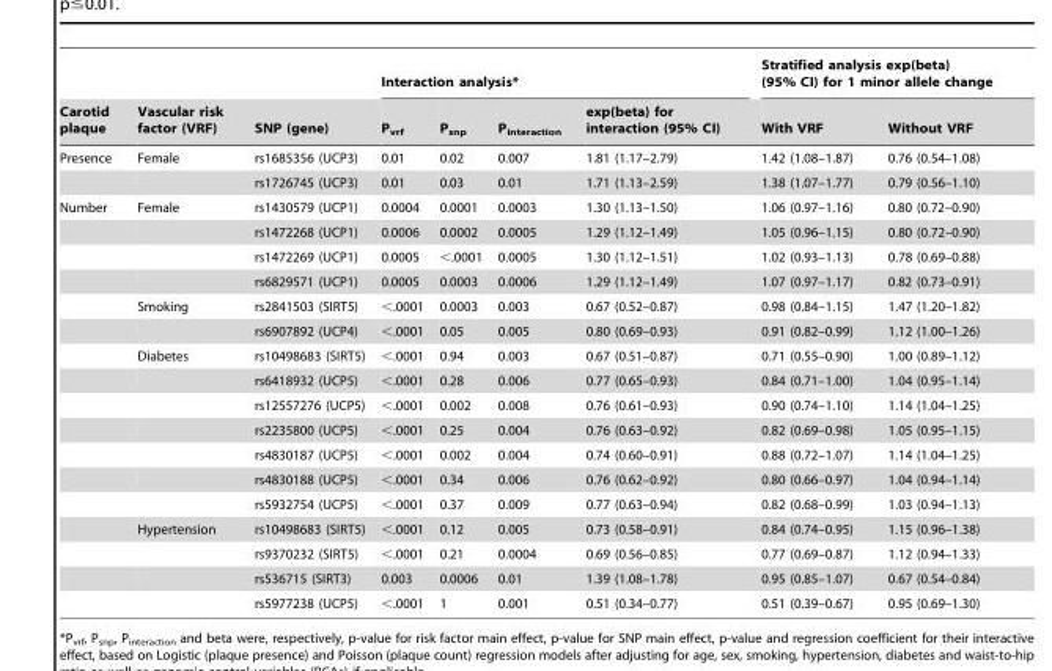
<table><thead><tr><td rowspan="2">Carotid plaque</td><td rowspan="2">Vascular risk factor (VRF)</td><td rowspan="2">SNP (gene)</td><td colspan="4">Interaction analysis*</td><td colspan="2">Stratified analysis exp(beta) (95% CI) for 1 minor allele change</td></tr><tr><td>P<sub>vrf</sub></td><td>P<sub>snp</sub></td><td>P<sub>interaction</sub></td><td>exp(beta) for interaction (95% CI)</td><td>With VRF</td><td>Without VRF</td></tr></thead><tbody><tr><td rowspan="2">Presence</td><td>Female</td><td>rs1685356 (UCP3)</td><td>0.01</td><td>0.02</td><td>0.007</td><td>1.81 (1.17–2.79)</td><td>1.42 (1.08–1.87)</td><td>0.76 (0.54–1.08)</td></tr><tr><td></td><td>rs1726745 (UCP3)</td><td>0.01</td><td>0.03</td><td>0.01</td><td>1.71 (1.13–2.59)</td><td>1.38 (1.07–1.77)</td><td>0.79 (0.56–1.10)</td></tr><tr><td rowspan="17">Number</td><td>Female</td><td>rs1430579 (UCP1)</td><td>0.0004</td><td>0.0001</td><td>0.0003</td><td>1.30 (1.13–1.50)</td><td>1.06 (0.97–1.16)</td><td>0.80 (0.72–0.90)</td></tr><tr><td></td><td>rs1472268 (UCP1)</td><td>0.0006</td><td>0.0002</td><td>0.0005</td><td>1.29 (1.12–1.49)</td><td>1.05 (0.96–1.15)</td><td>0.80 (0.72–0.90)</td></tr><tr><td></td><td>rs1472269 (UCP1)</td><td>0.0005</td><td>&lt;.0001</td><td>0.0005</td><td>1.30 (1.12–1.51)</td><td>1.02 (0.93–1.13)</td><td>0.78 (0.69–0.88)</td></tr><tr><td></td><td>rs6829571 (UCP1)</td><td>0.0005</td><td>0.0003</td><td>0.0006</td><td>1.29 (1.12–1.49)</td><td>1.07 (0.97–1.17)</td><td>0.82 (0.73–0.91)</td></tr><tr><td>Smoking</td><td>rs2841503 (SIRT5)</td><td>&lt;.0001</td><td>0.0003</td><td>0.003</td><td>0.67 (0.52–0.87)</td><td>0.98 (0.84–1.15)</td><td>1.47 (1.20–1.82)</td></tr><tr><td></td><td>rs6907892 (UCP4)</td><td>&lt;.0001</td><td>0.05</td><td>0.005</td><td>0.80 (0.69–0.93)</td><td>0.91 (0.82–0.99)</td><td>1.12 (1.00–1.26)</td></tr><tr><td>Diabetes</td><td>rs10498683 (SIRT5)</td><td>&lt;.0001</td><td>0.94</td><td>0.003</td><td>0.67 (0.51–0.87)</td><td>0.71 (0.55–0.90)</td><td>1.00 (0.89–1.12)</td></tr><tr><td></td><td>rs6418932 (UCP5)</td><td>&lt;.0001</td><td>0.28</td><td>0.006</td><td>0.77 (0.65–0.93)</td><td>0.84 (0.71–1.00)</td><td>1.04 (0.95–1.14)</td></tr><tr><td></td><td>rs12557276 (UCP5)</td><td>&lt;.0001</td><td>0.002</td><td>0.008</td><td>0.76 (0.61–0.93)</td><td>0.90 (0.74–1.10)</td><td>1.14 (1.04–1.25)</td></tr><tr><td></td><td>rs2235800 (UCP5)</td><td>&lt;.0001</td><td>0.25</td><td>0.004</td><td>0.76 (0.63–0.92)</td><td>0.82 (0.69–0.98)</td><td>1.05 (0.95–1.15)</td></tr><tr><td></td><td>rs4830187 (UCP5)</td><td>&lt;.0001</td><td>0.002</td><td>0.004</td><td>0.74 (0.60–0.91)</td><td>0.88 (0.72–1.07)</td><td>1.14 (1.04–1.25)</td></tr><tr><td></td><td>rs4830188 (UCP5)</td><td>&lt;.0001</td><td>0.34</td><td>0.006</td><td>0.76 (0.62–0.92)</td><td>0.80 (0.66–0.97)</td><td>1.04 (0.94–1.14)</td></tr><tr><td></td><td>rs5932754 (UCP5)</td><td>&lt;.0001</td><td>0.37</td><td>0.009</td><td>0.77 (0.63–0.94)</td><td>0.82 (0.68–0.99)</td><td>1.03 (0.94–1.13)</td></tr><tr><td>Hypertension</td><td>rs10498683 (SIRT5)</td><td>&lt;.0001</td><td>0.12</td><td>0.005</td><td>0.73 (0.58–0.91)</td><td>0.84 (0.74–0.95)</td><td>1.15 (0.96–1.38)</td></tr><tr><td></td><td>rs9370232 (SIRT5)</td><td>&lt;.0001</td><td>0.21</td><td>0.0004</td><td>0.69 (0.56–0.85)</td><td>0.77 (0.69–0.87)</td><td>1.12 (0.94–1.33)</td></tr><tr><td></td><td>rs536715 (SIRT3)</td><td>0.003</td><td>0.0006</td><td>0.01</td><td>1.39 (1.08–1.78)</td><td>0.95 (0.85–1.07)</td><td>0.67 (0.54–0.84)</td></tr><tr><td></td><td>rs5977238 (UCP5)</td><td>&lt;.0001</td><td>1</td><td>0.001</td><td>0.51 (0.34–0.77)</td><td>0.51 (0.39–0.67)</td><td>0.95 (0.69–1.30)</td></tr></tbody></table>